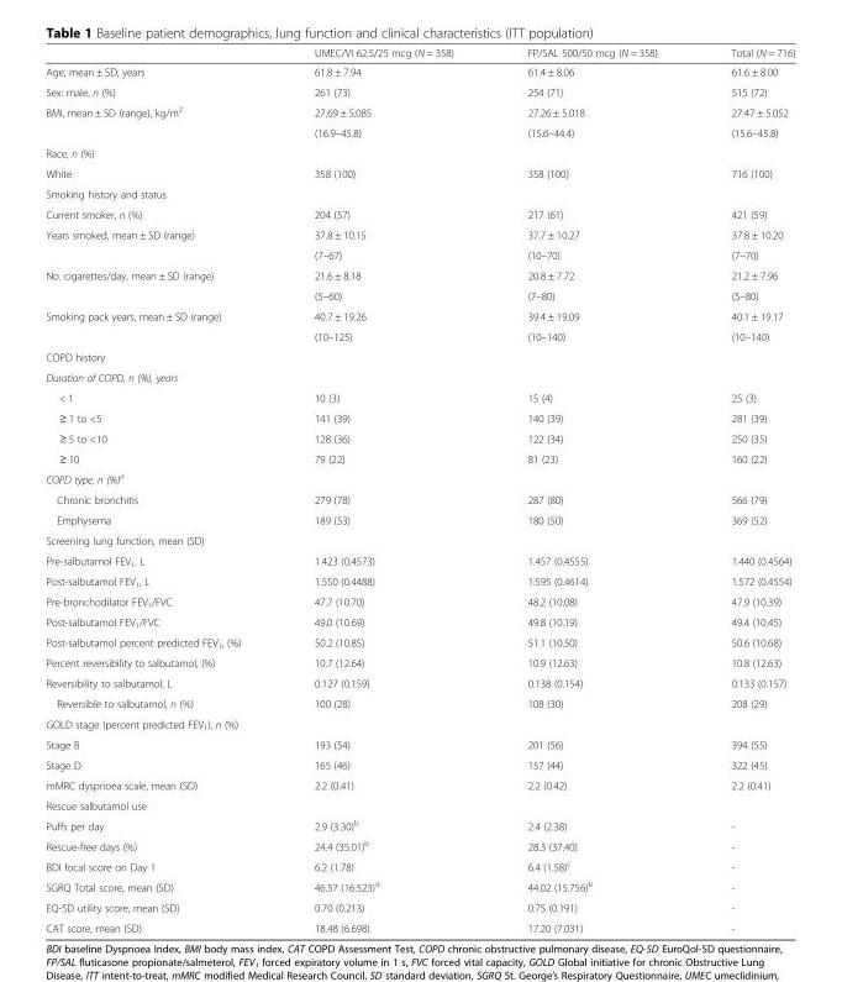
<table><thead><tr><td></td><td>UMEC/VI 62.5/25 mcg (N = 358)</td><td>FP/SAL 500/50 mcg (N = 358)</td><td>Total (N = 716)</td></tr></thead><tbody><tr><td>Age, mean ± SD, years</td><td>61.8 ± 7.94</td><td>61.4 ± 8.06</td><td>61.6 ± 8.00</td></tr><tr><td>Sex: male, n (%)</td><td>261 (73)</td><td>254 (71)</td><td>515 (72)</td></tr><tr><td rowspan="2">BMI, mean ± SD (range), kg/m<sup>2</sup></td><td>27.69 ± 5.085</td><td>27.26 ± 5.018</td><td>27.47 ± 5.052</td></tr><tr><td>(16.9–45.8)</td><td>(15.6–44.4)</td><td>(15.6–45.8)</td></tr><tr><td colspan="4">Race, n (%)</td></tr><tr><td>White</td><td>358 (100)</td><td>358 (100)</td><td>716 (100)</td></tr><tr><td colspan="4">Smoking history and status</td></tr><tr><td>Current smoker, n (%)</td><td>204 (57)</td><td>217 (61)</td><td>421 (59)</td></tr><tr><td rowspan="2">Years smoked, mean ± SD (range)</td><td>37.8 ± 10.15</td><td>37.7 ± 10.27</td><td>37.8 ± 10.20</td></tr><tr><td>(7–67)</td><td>(10–70)</td><td>(7–70)</td></tr><tr><td rowspan="2">No. cigarettes/day, mean ± SD (range)</td><td>21.6 ± 8.18</td><td>20.8 ± 7.72</td><td>21.2 ± 7.96</td></tr><tr><td>(5–60)</td><td>(7–80)</td><td>(5–80)</td></tr><tr><td rowspan="2">Smoking pack years, mean ± SD (range)</td><td>40.7 ± 19.26</td><td>39.4 ± 19.09</td><td>40.1 ± 19.17</td></tr><tr><td>(10–125)</td><td>(10–140)</td><td>(10–140)</td></tr><tr><td colspan="4">COPD history</td></tr><tr><td colspan="4">Duration of COPD, n (%), years</td></tr><tr><td>&lt; 1</td><td>10 (3)</td><td>15 (4)</td><td>25 (3)</td></tr><tr><td>≥ 1 to &lt;5</td><td>141 (39)</td><td>140 (39)</td><td>281 (39)</td></tr><tr><td>≥ 5 to &lt;10</td><td>128 (36)</td><td>122 (34)</td><td>250 (35)</td></tr><tr><td>≥ 10</td><td>79 (22)</td><td>81 (23)</td><td>160 (22)</td></tr><tr><td colspan="4">COPD type, n (%)<sup>a</sup></td></tr><tr><td>Chronic bronchitis</td><td>279 (78)</td><td>287 (80)</td><td>566 (79)</td></tr><tr><td>Emphysema</td><td>189 (53)</td><td>180 (50)</td><td>369 (52)</td></tr><tr><td colspan="4">Screening lung function, mean (SD)</td></tr><tr><td>Pre-salbutamol FEV<sub>1</sub>, L</td><td>1.423 (0.4573)</td><td>1.457 (0.4555)</td><td>1.440 (0.4564)</td></tr><tr><td>Post-salbutamol FEV<sub>1</sub>, L</td><td>1.550 (0.4488)</td><td>1.595 (0.4614)</td><td>1.572 (0.4554)</td></tr><tr><td>Pre-bronchodilator FEV<sub>1</sub>/FVC</td><td>47.7 (10.70)</td><td>48.2 (10.08)</td><td>47.9 (10.39)</td></tr><tr><td>Post-salbutamol FEV<sub>1</sub>/FVC</td><td>49.0 (10.69)</td><td>49.8 (10.19)</td><td>49.4 (10.45)</td></tr><tr><td>Post-salbutamol percent predicted FEV<sub>1</sub>, (%)</td><td>50.2 (10.85)</td><td>51.1 (10.50)</td><td>50.6 (10.68)</td></tr><tr><td>Percent reversibility to salbutamol, (%)</td><td>10.7 (12.64)</td><td>10.9 (12.63)</td><td>10.8 (12.63)</td></tr><tr><td>Reversibility to salbutamol, L</td><td>0.127 (0.159)</td><td>0.138 (0.154)</td><td>0.133 (0.157)</td></tr><tr><td>Reversible to salbutamol, n (%)</td><td>100 (28)</td><td>108 (30)</td><td>208 (29)</td></tr><tr><td colspan="4">GOLD stage (percent predicted FEV<sub>1</sub>), n (%)</td></tr><tr><td>Stage B</td><td>193 (54)</td><td>201 (56)</td><td>394 (55)</td></tr><tr><td>Stage D</td><td>165 (46)</td><td>157 (44)</td><td>322 (45)</td></tr><tr><td>mMRC dyspnoea scale, mean (SD)</td><td>2.2 (0.41)</td><td>2.2 (0.42)</td><td>2.2 (0.41)</td></tr><tr><td colspan="4">Rescue salbutamol use</td></tr><tr><td>Puffs per day</td><td>2.9 (3.30)<sup>b</sup></td><td>2.4 (2.38)</td><td>-</td></tr><tr><td>Rescue-free days (%)</td><td>24.4 (35.01)<sup>b</sup></td><td>28.3 (37.40)</td><td>-</td></tr><tr><td>BDI focal score on Day 1</td><td>6.2 (1.78)</td><td>6.4 (1.58)<sup>c</sup></td><td>-</td></tr><tr><td>SGRQ Total score, mean (SD)</td><td>46.57 (16.523)<sup>d</sup></td><td>44.02 (15.756)<sup>b</sup></td><td>-</td></tr><tr><td>EQ-5D utility score, mean (SD)</td><td>0.70 (0.213)</td><td>0.75 (0.191)</td><td>-</td></tr><tr><td>CAT score, mean (SD)</td><td>18.48 (6.698)</td><td>17.20 (7.031)</td><td>-</td></tr></tbody></table>